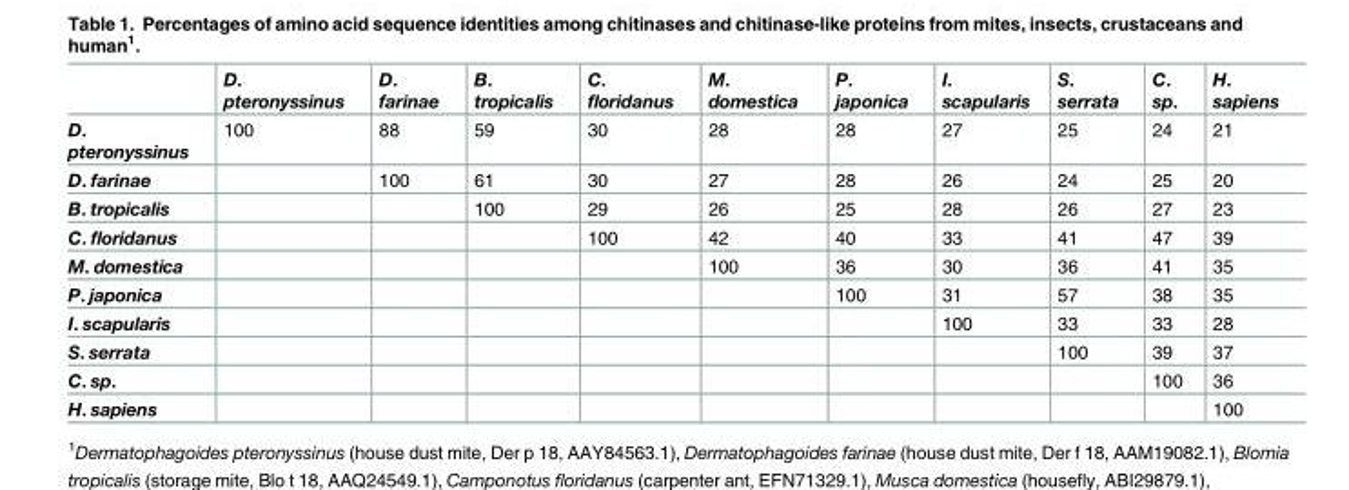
<table><thead><tr><td></td><td>D. pteronyssinus</td><td>D. farinae</td><td>B. tropicalis</td><td>C. floridanus</td><td>M. domestica</td><td>P. japonica</td><td>I. scapularis</td><td>S. serrata</td><td>C. sp.</td><td>H. sapiens</td></tr></thead><tbody><tr><td>D. pteronyssinus</td><td>100</td><td>88</td><td>59</td><td>30</td><td>28</td><td>28</td><td>27</td><td>25</td><td>24</td><td>21</td></tr><tr><td>D. farinae</td><td></td><td>100</td><td>61</td><td>30</td><td>27</td><td>28</td><td>26</td><td>24</td><td>25</td><td>20</td></tr><tr><td>B. tropicalis</td><td></td><td></td><td>100</td><td>29</td><td>26</td><td>25</td><td>28</td><td>26</td><td>27</td><td>23</td></tr><tr><td>C. floridanus</td><td></td><td></td><td></td><td>100</td><td>42</td><td>40</td><td>33</td><td>41</td><td>47</td><td>39</td></tr><tr><td>M. domestica</td><td></td><td></td><td></td><td></td><td>100</td><td>36</td><td>30</td><td>36</td><td>41</td><td>35</td></tr><tr><td>P. japonica</td><td></td><td></td><td></td><td></td><td></td><td>100</td><td>31</td><td>57</td><td>38</td><td>35</td></tr><tr><td>I. scapularis</td><td></td><td></td><td></td><td></td><td></td><td></td><td>100</td><td>33</td><td>33</td><td>28</td></tr><tr><td>S. serrata</td><td></td><td></td><td></td><td></td><td></td><td></td><td></td><td>100</td><td>39</td><td>37</td></tr><tr><td>C. sp.</td><td></td><td></td><td></td><td></td><td></td><td></td><td></td><td></td><td>100</td><td>36</td></tr><tr><td>H. sapiens</td><td></td><td></td><td></td><td></td><td></td><td></td><td></td><td></td><td></td><td>100</td></tr></tbody></table>